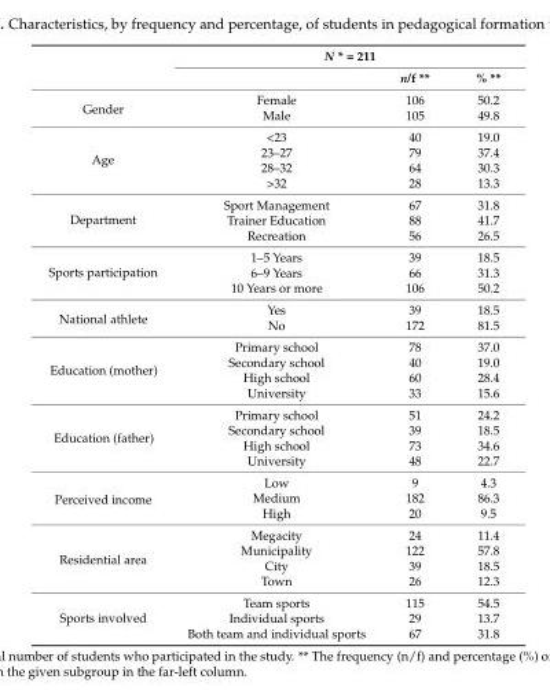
<table><thead><tr><td rowspan="2"></td><td colspan="3">N * = 211</td></tr><tr><td></td><td>n/f **</td><td>% **</td></tr></thead><tbody><tr><td rowspan="2">Gender</td><td>Female</td><td>106</td><td>50.2</td></tr><tr><td>Male</td><td>105</td><td>49.8</td></tr><tr><td rowspan="4">Age</td><td>&lt;23</td><td>40</td><td>19.0</td></tr><tr><td>23–27</td><td>79</td><td>37.4</td></tr><tr><td>28–32</td><td>64</td><td>30.3</td></tr><tr><td>&gt;32</td><td>28</td><td>13.3</td></tr><tr><td rowspan="3">Department</td><td>Sport Management</td><td>67</td><td>31.8</td></tr><tr><td>Trainer Education</td><td>88</td><td>41.7</td></tr><tr><td>Recreation</td><td>56</td><td>26.5</td></tr><tr><td rowspan="3">Sports participation</td><td>1–5 Years</td><td>39</td><td>18.5</td></tr><tr><td>6–9 Years</td><td>66</td><td>31.3</td></tr><tr><td>10 Years or more</td><td>106</td><td>50.2</td></tr><tr><td rowspan="2">National athlete</td><td>Yes</td><td>39</td><td>18.5</td></tr><tr><td>No</td><td>172</td><td>81.5</td></tr><tr><td rowspan="4">Education (mother)</td><td>Primary school</td><td>78</td><td>37.0</td></tr><tr><td>Secondary school</td><td>40</td><td>19.0</td></tr><tr><td>High school</td><td>60</td><td>28.4</td></tr><tr><td>University</td><td>33</td><td>15.6</td></tr><tr><td rowspan="4">Education (father)</td><td>Primary school</td><td>51</td><td>24.2</td></tr><tr><td>Secondary school</td><td>39</td><td>18.5</td></tr><tr><td>High school</td><td>73</td><td>34.6</td></tr><tr><td>University</td><td>48</td><td>22.7</td></tr><tr><td rowspan="3">Perceived income</td><td>Low</td><td>9</td><td>4.3</td></tr><tr><td>Medium</td><td>182</td><td>86.3</td></tr><tr><td>High</td><td>20</td><td>9.5</td></tr><tr><td rowspan="4">Residential area</td><td>Megacity</td><td>24</td><td>11.4</td></tr><tr><td>Municipality</td><td>122</td><td>57.8</td></tr><tr><td>City</td><td>39</td><td>18.5</td></tr><tr><td>Town</td><td>26</td><td>12.3</td></tr><tr><td rowspan="3">Sports involved</td><td>Team sports</td><td>115</td><td>54.5</td></tr><tr><td>Individual sports</td><td>29</td><td>13.7</td></tr><tr><td>Both team and individual sports</td><td>67</td><td>31.8</td></tr></tbody></table>